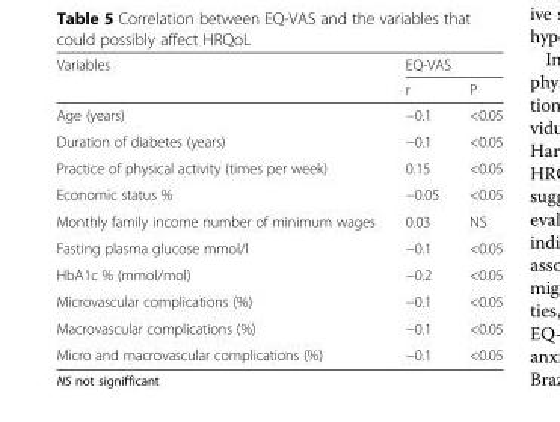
<table><thead><tr><td rowspan="2">Variables</td><td colspan="2">EQ-VAS</td></tr><tr><td>r</td><td>P</td></tr></thead><tbody><tr><td>Age (years)</td><td>−0.1</td><td>&lt;0.05</td></tr><tr><td>Duration of diabetes (years)</td><td>−0.1</td><td>&lt;0.05</td></tr><tr><td>Practice of physical activity (times per week)</td><td>0.15</td><td>&lt;0.05</td></tr><tr><td>Economic status %</td><td>−0.05</td><td>&lt;0.05</td></tr><tr><td>Monthly family income number of minimum wages</td><td>0.03</td><td>NS</td></tr><tr><td>Fasting plasma glucose mmol/l</td><td>−0.1</td><td>&lt;0.05</td></tr><tr><td>HbA1c % (mmol/mol)</td><td>−0.2</td><td>&lt;0.05</td></tr><tr><td>Microvascular complications (%)</td><td>−0.1</td><td>&lt;0.05</td></tr><tr><td>Macrovascular complications (%)</td><td>−0.1</td><td>&lt;0.05</td></tr><tr><td>Micro and macrovascular complications (%)</td><td>−0.1</td><td>&lt;0.05</td></tr></tbody></table>